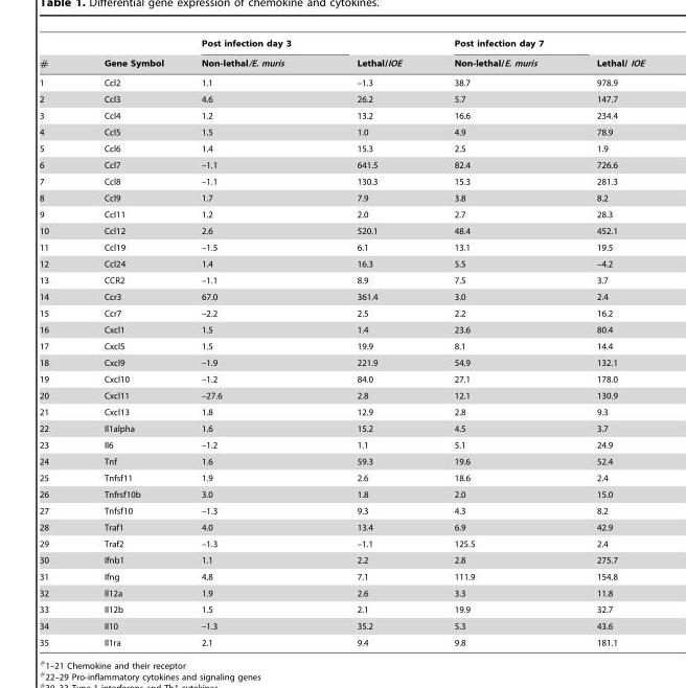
<table><thead><tr><td rowspan="2">#</td><td rowspan="2">Gene Symbol</td><td rowspan="2">Post infection day 3 Non-lethal/E. muris</td><td rowspan="2">Lethal/IOE</td><td rowspan="2">Post infection day 7 Non-lethal/E. muris</td><td rowspan="2">Lethal/ IOE</td></tr><tr></tr></thead><tbody><tr><td>1</td><td>Ccl2</td><td>1.1</td><td>–1.3</td><td>38.7</td><td>978.9</td></tr><tr><td>2</td><td>Ccl3</td><td>4.6</td><td>26.2</td><td>5.7</td><td>147.7</td></tr><tr><td>3</td><td>Ccl4</td><td>1.2</td><td>13.2</td><td>16.6</td><td>234.4</td></tr><tr><td>4</td><td>Ccl5</td><td>1.5</td><td>1.0</td><td>4.9</td><td>78.9</td></tr><tr><td>5</td><td>Ccl6</td><td>1.4</td><td>15.3</td><td>2.5</td><td>1.9</td></tr><tr><td>6</td><td>Ccl7</td><td>–1.1</td><td>641.5</td><td>82.4</td><td>726.6</td></tr><tr><td>7</td><td>Ccl8</td><td>–1.1</td><td>130.3</td><td>15.3</td><td>281.3</td></tr><tr><td>8</td><td>Ccl9</td><td>1.7</td><td>7.9</td><td>3.8</td><td>8.2</td></tr><tr><td>9</td><td>Ccl11</td><td>1.2</td><td>2.0</td><td>2.7</td><td>28.3</td></tr><tr><td>10</td><td>Ccl12</td><td>2.6</td><td>520.1</td><td>48.4</td><td>452.1</td></tr><tr><td>11</td><td>Ccl19</td><td>–1.5</td><td>6.1</td><td>13.1</td><td>19.5</td></tr><tr><td>12</td><td>Ccl24</td><td>1.4</td><td>16.3</td><td>5.5</td><td>–4.2</td></tr><tr><td>13</td><td>CCR2</td><td>–1.1</td><td>8.9</td><td>7.5</td><td>3.7</td></tr><tr><td>14</td><td>Ccr3</td><td>67.0</td><td>361.4</td><td>3.0</td><td>2.4</td></tr><tr><td>15</td><td>Ccr7</td><td>–2.2</td><td>2.5</td><td>2.2</td><td>16.2</td></tr><tr><td>16</td><td>Cxcl1</td><td>1.5</td><td>1.4</td><td>23.6</td><td>80.4</td></tr><tr><td>17</td><td>Cxcl5</td><td>1.5</td><td>19.9</td><td>8.1</td><td>14.4</td></tr><tr><td>18</td><td>Cxcl9</td><td>–1.9</td><td>221.9</td><td>54.9</td><td>132.1</td></tr><tr><td>19</td><td>Cxcl10</td><td>–1.2</td><td>84.0</td><td>27.1</td><td>178.0</td></tr><tr><td>20</td><td>Cxcl11</td><td>–27.6</td><td>2.8</td><td>12.1</td><td>130.9</td></tr><tr><td>21</td><td>Cxcl13</td><td>1.8</td><td>12.9</td><td>2.8</td><td>9.3</td></tr><tr><td>22</td><td>Il1alpha</td><td>1.6</td><td>15.2</td><td>4.5</td><td>3.7</td></tr><tr><td>23</td><td>Il6</td><td>–1.2</td><td>1.1</td><td>5.1</td><td>24.9</td></tr><tr><td>24</td><td>Tnf</td><td>1.6</td><td>59.3</td><td>19.6</td><td>52.4</td></tr><tr><td>25</td><td>Tnfsf11</td><td>1.9</td><td>2.6</td><td>18.6</td><td>2.4</td></tr><tr><td>26</td><td>Tnfrsf10b</td><td>3.0</td><td>1.8</td><td>2.0</td><td>15.0</td></tr><tr><td>27</td><td>Tnfsf10</td><td>–1.3</td><td>9.3</td><td>4.3</td><td>8.2</td></tr><tr><td>28</td><td>Traf1</td><td>4.0</td><td>13.4</td><td>6.9</td><td>42.9</td></tr><tr><td>29</td><td>Traf2</td><td>–1.3</td><td>–1.1</td><td>125.5</td><td>2.4</td></tr><tr><td>30</td><td>Ifnb1</td><td>1.1</td><td>2.2</td><td>2.8</td><td>275.7</td></tr><tr><td>31</td><td>Ifng</td><td>4.8</td><td>7.1</td><td>111.9</td><td>154.8</td></tr><tr><td>32</td><td>Il12a</td><td>1.9</td><td>2.6</td><td>3.3</td><td>11.8</td></tr><tr><td>33</td><td>Il12b</td><td>1.5</td><td>2.1</td><td>19.9</td><td>32.7</td></tr><tr><td>34</td><td>Il10</td><td>–1.3</td><td>35.2</td><td>5.3</td><td>43.6</td></tr><tr><td>35</td><td>Il1ra</td><td>2.1</td><td>9.4</td><td>9.8</td><td>181.1</td></tr></tbody></table>